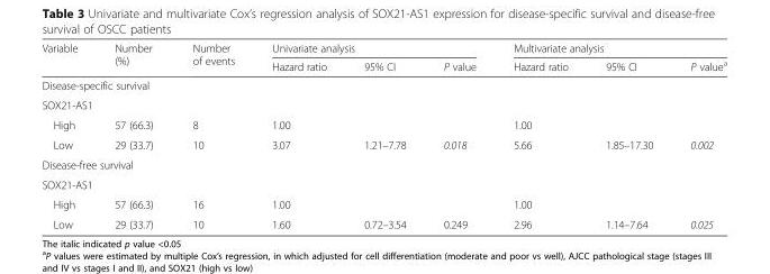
<table><thead><tr><td rowspan="2">Variable</td><td rowspan="2">Number (%)</td><td rowspan="2">Number of events</td><td colspan="3">Univariate analysis</td><td colspan="3">Multivariate analysis</td></tr><tr><td>Hazard ratio</td><td>95% CI</td><td>P value</td><td>Hazard ratio</td><td>95% CI</td><td>P value<sup>a</sup></td></tr></thead><tbody><tr><td colspan="9">Disease-specific survival</td></tr><tr><td colspan="9">SOX21-AS1</td></tr><tr><td>High</td><td>57 (66.3)</td><td>8</td><td>1.00</td><td></td><td></td><td>1.00</td><td></td><td></td></tr><tr><td>Low</td><td>29 (33.7)</td><td>10</td><td>3.07</td><td>1.21–7.78</td><td>0.018</td><td>5.66</td><td>1.85–17.30</td><td>0.002</td></tr><tr><td colspan="9">Disease-free survival</td></tr><tr><td colspan="9">SOX21-AS1</td></tr><tr><td>High</td><td>57 (66.3)</td><td>16</td><td>1.00</td><td></td><td></td><td>1.00</td><td></td><td></td></tr><tr><td>Low</td><td>29 (33.7)</td><td>10</td><td>1.60</td><td>0.72–3.54</td><td>0.249</td><td>2.96</td><td>1.14–7.64</td><td>0.025</td></tr></tbody></table>